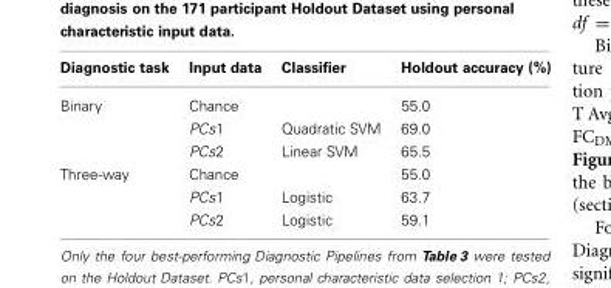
<table><thead><tr><td>Diagnostic task</td><td>Input data</td><td>Classifier</td><td>Holdout accuracy (%)</td></tr></thead><tbody><tr><td rowspan="3">Binary</td><td>Chance</td><td></td><td>55.0</td></tr><tr><td>PCs1</td><td>Quadratic SVM</td><td>69.0</td></tr><tr><td>PCs2</td><td>Linear SVM</td><td>65.5</td></tr><tr><td rowspan="3">Three-way</td><td>Chance</td><td></td><td>55.0</td></tr><tr><td>PCs1</td><td>Logistic</td><td>63.7</td></tr><tr><td>PCs2</td><td>Logistic</td><td>59.1</td></tr></tbody></table>